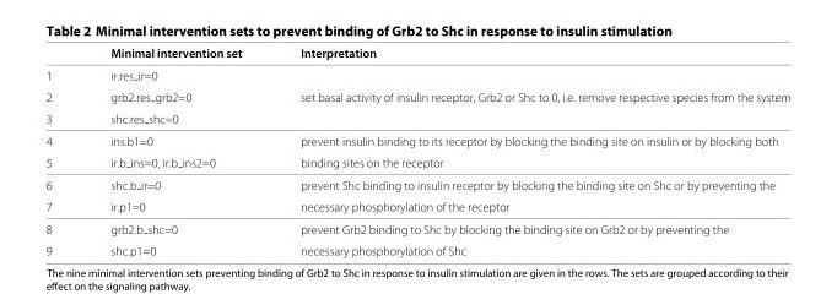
<table><thead><tr><td></td><td>Minimal intervention set</td><td>Interpretation</td></tr></thead><tbody><tr><td>1</td><td>ir.res ir=0</td><td></td></tr><tr><td>2</td><td>grb2.res grb2=0</td><td>set basal activity of insulin receptor, Grb2 or Shc to 0, i.e. remove respective species from the system</td></tr><tr><td>3</td><td>shc.res shc=0</td><td></td></tr><tr><td>4</td><td>ins.b1=0</td><td>prevent insulin binding to its receptor by blocking the binding site on insulin or by blocking both</td></tr><tr><td>5</td><td>ir.b <sub>ins=0, ir.b</sub> ins2=0</td><td>binding sites on the receptor</td></tr><tr><td>6</td><td>shc.b ir=0</td><td>prevent Shc binding to insulin receptor by blocking the binding site on Shc or by preventing the</td></tr><tr><td>7</td><td>ir.p1=0</td><td>necessary phosphorylation of the receptor</td></tr><tr><td>8</td><td>grb2.b shc=0</td><td>prevent Grb2 binding to Shc by blocking the binding site on Grb2 or by preventing the</td></tr><tr><td>9</td><td>shc.p1=0</td><td>necessary phosphorylation of Shc</td></tr></tbody></table>